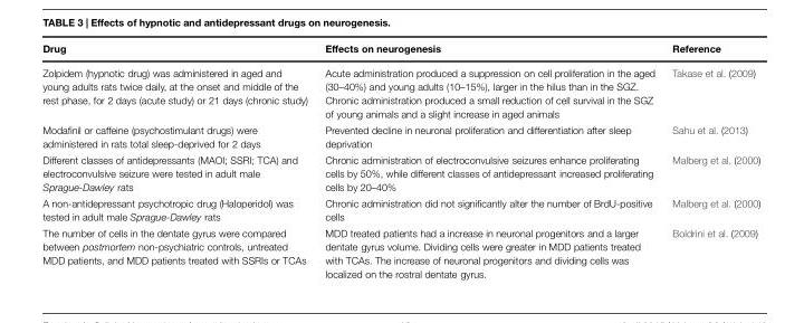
<table><thead><tr><td>Drug</td><td>Effects on neurogenesis</td><td>Reference</td></tr></thead><tbody><tr><td>Zolpidem (hypnotic drug) was administered in aged and young adults rats twice daily, at the onset and middle of the rest phase, for 2 days (acute study) or 21 days (chronic study)</td><td>Acute administration produced a suppression on cell proliferation in the aged (30–40%) and young adults (10–15%), larger in the hilus than in the SGZ. Chronic administration produced a small reduction of cell survival in the SGZ of young animals and a slight increase in aged animals</td><td>Takase et al. (2009)</td></tr><tr><td>Modafinil or caffeine (psychostimulant drugs) were administered in rats total sleep-deprived for 2 days</td><td>Prevented decline in neuronal proliferation and differentiation after sleep deprivation</td><td>Sahu et al. (2013)</td></tr><tr><td>Different classes of antidepressants (MAOI; SSRI; TCA) and electroconvulsive seizure were tested in adult male Sprague-Dawley rats</td><td>Chronic administration of electroconvulsive seizures enhance proliferating cells by 50%, while different classes of antidepressant increased proliferating cells by 20–40%</td><td>Malberg et al. (2000)</td></tr><tr><td>A non-antidepressant psychotropic drug (Haloperidol) was tested in adult male Sprague-Dawley rats</td><td>Chronic administration did not significantly alter the number of BrdU-positive cells</td><td>Malberg et al. (2000)</td></tr><tr><td>The number of cells in the dentate gyrus were compared between postmortem non-psychiatric controls, untreated MDD patients, and MDD patients treated with SSRIs or TCAs</td><td>MDD treated patients had a increase in neuronal progenitors and a larger dentate gyrus volume. Dividing cells were greater in MDD patients treated with TCAs. The increase of neuronal progenitors and dividing cells was localized on the rostral dentate gyrus.</td><td>Boldrini et al. (2009)</td></tr></tbody></table>